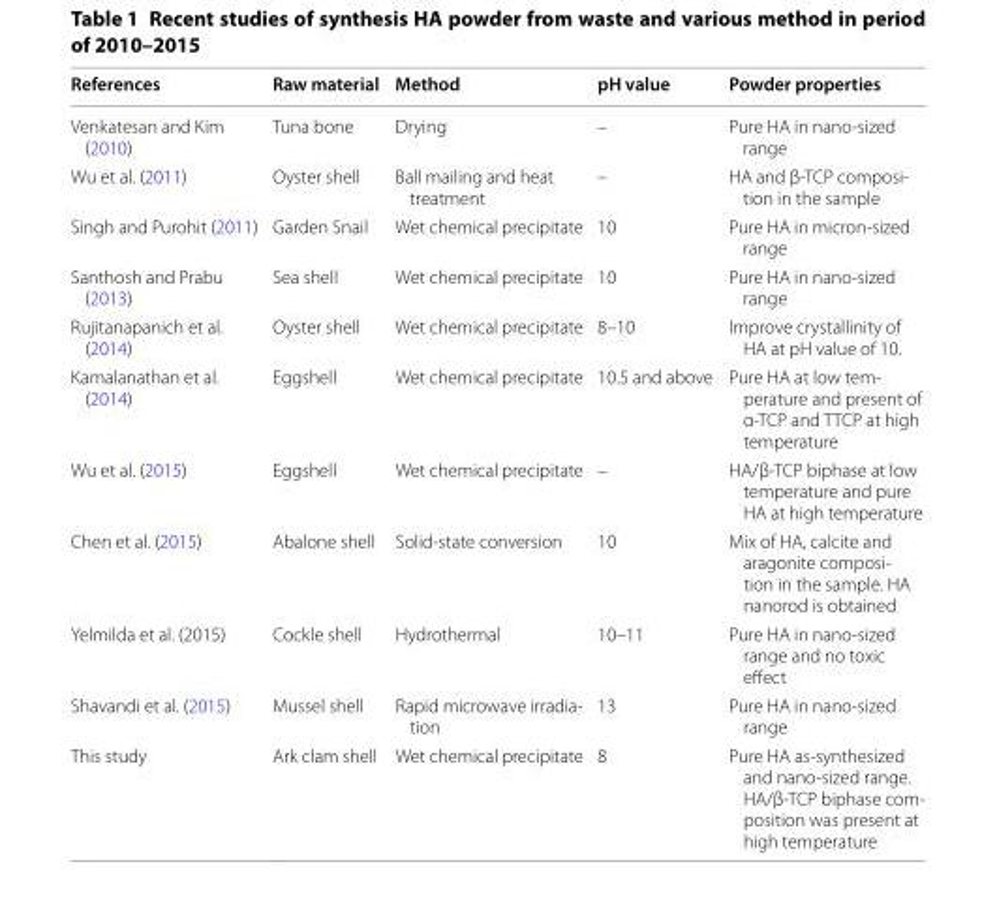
<table><thead><tr><td>References</td><td>Raw material</td><td>Method</td><td>pH value</td><td>Powder properties</td></tr></thead><tbody><tr><td>Venkatesan and Kim (2010)</td><td>Tuna bone</td><td>Drying</td><td>–</td><td>Pure HA in nano-sized range</td></tr><tr><td>Wu et al. (2011)</td><td>Oyster shell</td><td>Ball mailing and heat treatment</td><td>–</td><td>HA and β-TCP composi- tion in the sample</td></tr><tr><td>Singh and Purohit (2011)</td><td>Garden Snail</td><td>Wet chemical precipitate</td><td>10</td><td>Pure HA in micron-sized range</td></tr><tr><td>Santhosh and Prabu (2013)</td><td>Sea shell</td><td>Wet chemical precipitate</td><td>10</td><td>Pure HA in nano-sized range</td></tr><tr><td>Rujitanapanich et al. (2014)</td><td>Oyster shell</td><td>Wet chemical precipitate</td><td>8–10</td><td>Improve crystallinity of HA at pH value of 10.</td></tr><tr><td>Kamalanathan et al. (2014)</td><td>Eggshell</td><td>Wet chemical precipitate</td><td>10.5 and above</td><td>Pure HA at low tem- perature and present of α-TCP and TTCP at high temperature</td></tr><tr><td>Wu et al. (2015)</td><td>Eggshell</td><td>Wet chemical precipitate</td><td>–</td><td>HA/β-TCP biphase at low temperature and pure HA at high temperature</td></tr><tr><td>Chen et al. (2015)</td><td>Abalone shell</td><td>Solid-state conversion</td><td>10</td><td>Mix of HA, calcite and aragonite composi- tion in the sample. HA nanorod is obtained</td></tr><tr><td>Yelmilda et al. (2015)</td><td>Cockle shell</td><td>Hydrothermal</td><td>10–11</td><td>Pure HA in nano-sized range and no toxic effect</td></tr><tr><td>Shavandi et al. (2015)</td><td>Mussel shell</td><td>Rapid microwave irradia- tion</td><td>13</td><td>Pure HA in nano-sized range</td></tr><tr><td>This study</td><td>Ark clam shell</td><td>Wet chemical precipitate</td><td>8</td><td>Pure HA as-synthesized and nano-sized range. HA/β-TCP biphase com- position was present at high temperature</td></tr></tbody></table>